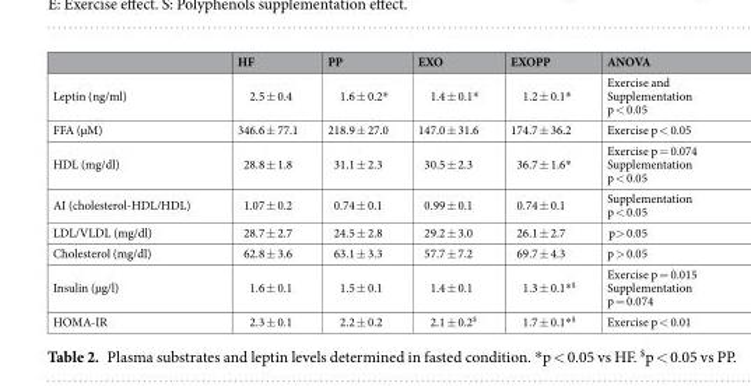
<table><thead><tr><td></td><td>HF</td><td>PP</td><td>EXO</td><td>EXOPP</td><td>ANOVA</td></tr></thead><tbody><tr><td>Leptin (ng/ml)</td><td>2.5 ± 0.4</td><td>1.6 ± 0.2*</td><td>1.4 ± 0.1*</td><td>1.2 ± 0.1*</td><td>Exercise and Supplementation p &lt; 0.05</td></tr><tr><td>FFA (µM)</td><td>346.6 ± 77.1</td><td>218.9 ± 27.0</td><td>147.0 ± 31.6</td><td>174.7 ± 36.2</td><td>Exercise p &lt; 0.05</td></tr><tr><td>HDL (mg/dl)</td><td>28.8 ± 1.8</td><td>31.1 ± 2.3</td><td>30.5 ± 2.3</td><td>36.7 ± 1.6*</td><td>Exercise p = 0.074 Supplementation p &lt; 0.05</td></tr><tr><td>AI (cholesterol-HDL/HDL)</td><td>1.07 ± 0.2</td><td>0.74 ± 0.1</td><td>0.99 ± 0.1</td><td>0.74 ± 0.1</td><td>Supplementation p &lt; 0.05</td></tr><tr><td>LDL/VLDL (mg/dl)</td><td>28.7 ± 2.7</td><td>24.5 ± 2.8</td><td>29.2 ± 3.0</td><td>26.1 ± 2.7</td><td>p&gt; 0.05</td></tr><tr><td>Cholesterol (mg/dl)</td><td>62.8 ± 3.6</td><td>63.1 ± 3.3</td><td>57.7 ± 7.2</td><td>69.7 ± 4.3</td><td>p &gt; 0.05</td></tr><tr><td>Insulin (µg/l)</td><td>1.6 ± 0.1</td><td>1.5 ± 0.1</td><td>1.4 ± 0.1</td><td>1.3 ± 0.1*<sup>$</sup></td><td>Exercise p = 0.015 Supplementation p = 0.074</td></tr><tr><td>HOMA-IR</td><td>2.3 ± 0.1</td><td>2.2 ± 0.2</td><td>2.1 ± 0.2<sup>$</sup></td><td>1.7 ± 0.1*<sup>$</sup></td><td>Exercise p &lt; 0.01</td></tr></tbody></table>